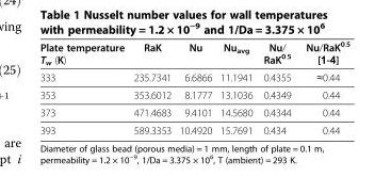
<table><thead><tr><td>Plate temperature T<sub>w</sub> (K)</td><td>RaK</td><td>Nu</td><td>Nu<sub>avg</sub></td><td>Nu/ RaK<sup>0.5</sup></td><td>Nu/RaK0.5 [1-4]</td></tr></thead><tbody><tr><td>333</td><td>235.7341</td><td>6.6866</td><td>11.1941</td><td>0.4355</td><td>≈0.44</td></tr><tr><td>353</td><td>353.6012</td><td>8.1777</td><td>13.1036</td><td>0.4349</td><td>0.44</td></tr><tr><td>373</td><td>471.4683</td><td>9.4101</td><td>14.5680</td><td>0.4344</td><td>0.44</td></tr><tr><td>393</td><td>589.3353</td><td>10.4920</td><td>15.7691</td><td>0.434</td><td>0.44</td></tr></tbody></table>